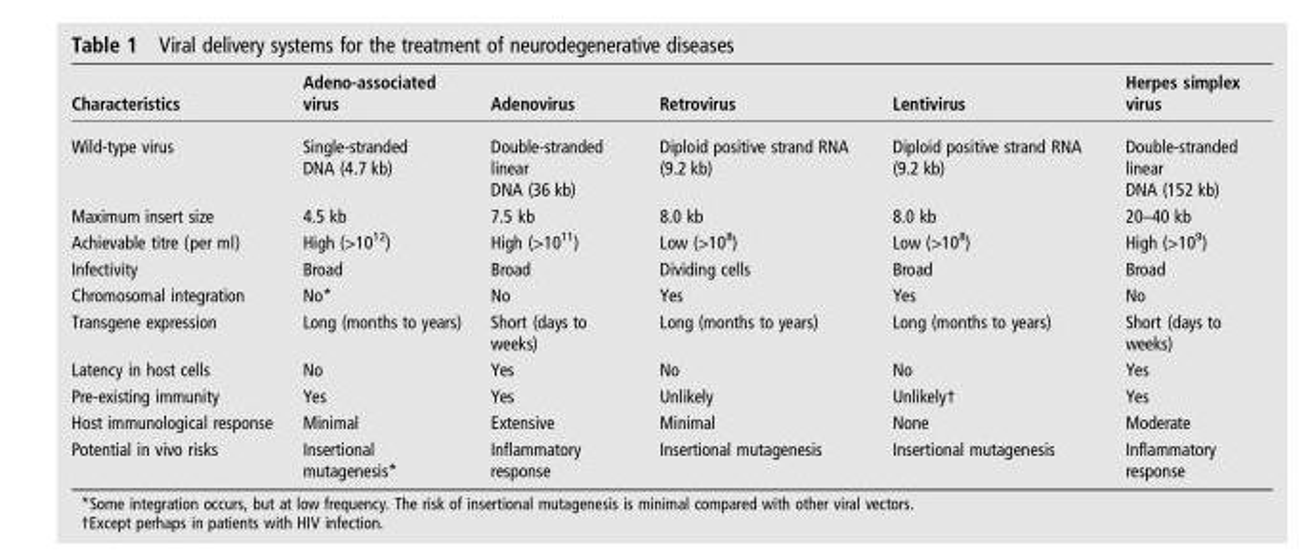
<table><thead><tr><td>Characteristics</td><td>Adeno-associated virus</td><td>Adenovirus</td><td>Retrovirus</td><td>Lentivirus</td><td>Herpes simplex virus</td></tr></thead><tbody><tr><td>Wild-type virus</td><td>Single-stranded DNA (4.7 kb)</td><td>Double-stranded linear DNA (36 kb)</td><td>Diploid positive strand RNA (9.2 kb)</td><td>Diploid positive strand RNA (9.2 kb)</td><td>Double-stranded linear DNA (152 kb)</td></tr><tr><td>Maximum insert size</td><td>4.5 kb</td><td>7.5 kb</td><td>8.0 kb</td><td>8.0 kb</td><td>20–40 kb</td></tr><tr><td>Achievable titre (per ml)</td><td>High (&gt;10<sup>12</sup>)</td><td>High (&gt;10<sup>11</sup>)</td><td>Low (&gt;10<sup>8</sup>)</td><td>Low (&gt;10<sup>8</sup>)</td><td>High (&gt;10<sup>9</sup>)</td></tr><tr><td>Infectivity</td><td>Broad</td><td>Broad</td><td>Dividing cells</td><td>Broad</td><td>Broad</td></tr><tr><td>Chromosomal integration</td><td>No*</td><td>No</td><td>Yes</td><td>Yes</td><td>No</td></tr><tr><td>Transgene expression</td><td>Long (months to years)</td><td>Short (days to weeks)</td><td>Long (months to years)</td><td>Long (months to years)</td><td>Short (days to weeks)</td></tr><tr><td>Latency in host cells</td><td>No</td><td>Yes</td><td>No</td><td>No</td><td>Yes</td></tr><tr><td>Pre-existing immunity</td><td>Yes</td><td>Yes</td><td>Unlikely</td><td>Unlikely†</td><td>Yes</td></tr><tr><td>Host immunological response</td><td>Minimal</td><td>Extensive</td><td>Minimal</td><td>None</td><td>Moderate</td></tr><tr><td>Potential in vivo risks</td><td>Insertional mutagenesis*</td><td>Inflammatory response</td><td>Insertional mutagenesis</td><td>Insertional mutagenesis</td><td>Inflammatory response</td></tr></tbody></table>